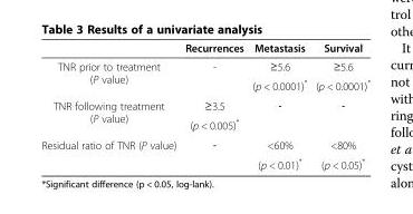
<table><thead><tr><td></td><td>Recurrences</td><td>Metastasis</td><td>Survival</td></tr></thead><tbody><tr><td rowspan="2">TNR prior to treatment (P value)</td><td rowspan="2">-</td><td>≥5.6</td><td>≥5.6</td></tr><tr><td>(p &lt; 0.0001)*</td><td>(p &lt; 0.0001)*</td></tr><tr><td rowspan="2">TNR following treatment (P value)</td><td>≥3.5</td><td rowspan="2">‐</td><td rowspan="2">‐</td></tr><tr><td>(p &lt; 0.005)*</td></tr><tr><td rowspan="2">Residual ratio of TNR (P value)</td><td>‐</td><td>&lt;60%</td><td>&lt;80%</td></tr><tr><td></td><td>(p &lt; 0.01)*</td><td>(p &lt; 0.05)*</td></tr></tbody></table>